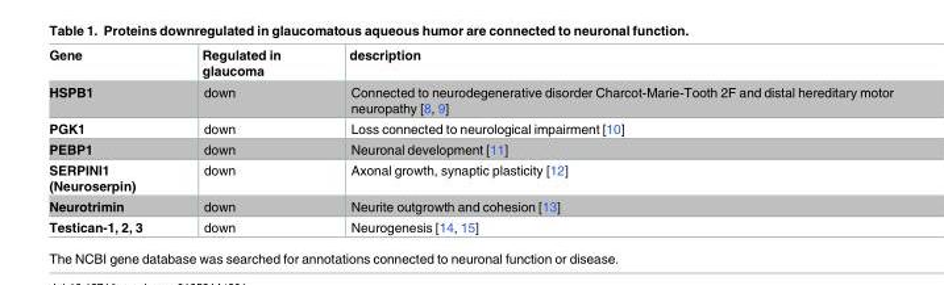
<table><thead><tr><td>Gene</td><td>Regulated in glaucoma</td><td>description</td></tr></thead><tbody><tr><td>HSPB1</td><td>down</td><td>Connected to neurodegenerative disorder Charcot-Marie-Tooth 2F and distal hereditary motor neuropathy [8, 9]</td></tr><tr><td>PGK1</td><td>down</td><td>Loss connected to neurological impairment [10]</td></tr><tr><td>PEBP1</td><td>down</td><td>Neuronal development [11]</td></tr><tr><td>SERPINI1 (Neuroserpin)</td><td>down</td><td>Axonal growth, synaptic plasticity [12]</td></tr><tr><td>Neurotrimin</td><td>down</td><td>Neurite outgrowth and cohesion [13]</td></tr><tr><td>Testican-1, 2, 3</td><td>down</td><td>Neurogenesis [14, 15]</td></tr></tbody></table>